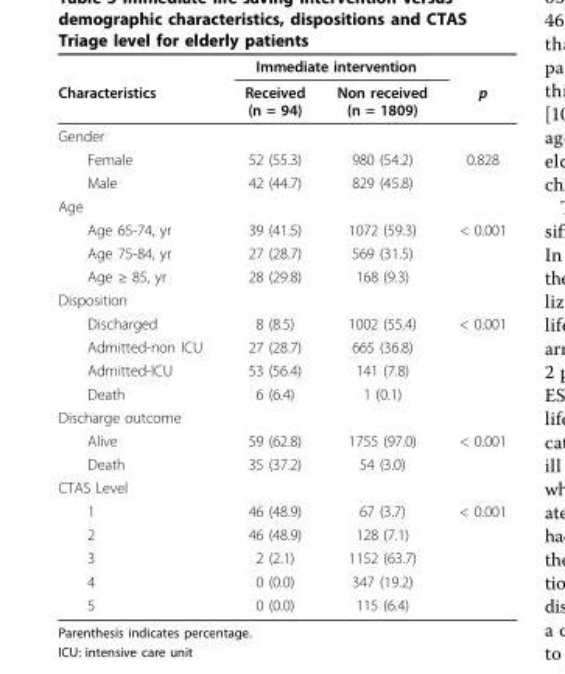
<table><thead><tr><td rowspan="2">Characteristics</td><td colspan="2">Immediate intervention</td><td rowspan="2">p</td></tr><tr><td>Received (n = 94)</td><td>Non received (n = 1809)</td></tr></thead><tbody><tr><td colspan="4">Gender</td></tr><tr><td>Female</td><td>52 (55.3)</td><td>980 (54.2)</td><td>0.828</td></tr><tr><td>Male</td><td>42 (44.7)</td><td>829 (45.8)</td><td></td></tr><tr><td colspan="4">Age</td></tr><tr><td>Age 65-74, yr</td><td>39 (41.5)</td><td>1072 (59.3)</td><td>&lt; 0.001</td></tr><tr><td>Age 75-84, yr</td><td>27 (28.7)</td><td>569 (31.5)</td><td></td></tr><tr><td>Age ≥ 85, yr</td><td>28 (29.8)</td><td>168 (9.3)</td><td></td></tr><tr><td colspan="4">Disposition</td></tr><tr><td>Discharged</td><td>8 (8.5)</td><td>1002 (55.4)</td><td>&lt; 0.001</td></tr><tr><td>Admitted-non ICU</td><td>27 (28.7)</td><td>665 (36.8)</td><td></td></tr><tr><td>Admitted-ICU</td><td>53 (56.4)</td><td>141 (7.8)</td><td></td></tr><tr><td>Death</td><td>6 (6.4)</td><td>1 (0.1)</td><td></td></tr><tr><td colspan="4">Discharge outcome</td></tr><tr><td>Alive</td><td>59 (62.8)</td><td>1755 (97.0)</td><td>&lt; 0.001</td></tr><tr><td>Death</td><td>35 (37.2)</td><td>54 (3.0)</td><td></td></tr><tr><td colspan="4">CTAS Level</td></tr><tr><td>1</td><td>46 (48.9)</td><td>67 (3.7)</td><td>&lt; 0.001</td></tr><tr><td>2</td><td>46 (48.9)</td><td>128 (7.1)</td><td></td></tr><tr><td>3</td><td>2 (2.1)</td><td>1152 (63.7)</td><td></td></tr><tr><td>4</td><td>0 (0.0)</td><td>347 (19.2)</td><td></td></tr><tr><td>5</td><td>0 (0.0)</td><td>115 (6.4)</td><td></td></tr></tbody></table>